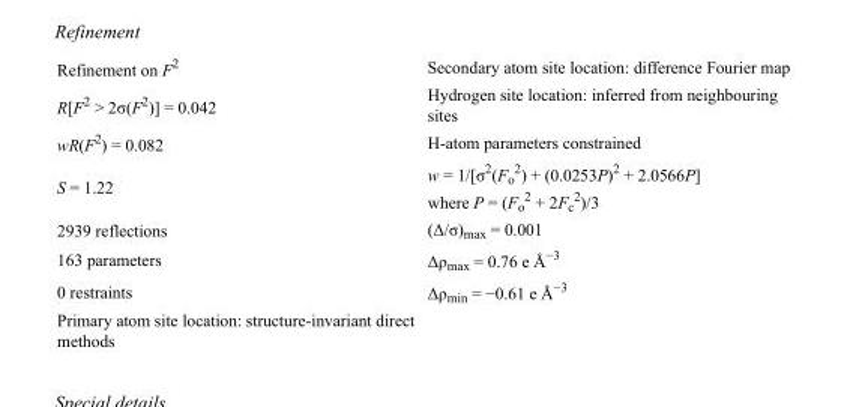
<table><tbody><tr><td>Refinement on F<sup>2</sup></td><td>Secondary atom site location: difference Fourier map</td></tr><tr><td>R[F<sup>2</sup> &gt; 2σ(F<sup>2</sup>)] = 0.042</td><td>Hydrogen site location: inferred from neighbouring sites</td></tr><tr><td>wR(F<sup>2</sup>) = 0.082</td><td>H-atom parameters constrained</td></tr><tr><td>S = 1.22</td><td>w = 1/[σ<sup>2</sup>(F<sub>o</sub> <sup>2</sup>) + (0.0253P)<sup>2</sup> + 2.0566P] where P = (F<sub>o</sub> <sup>2</sup> + 2F<sub>c</sub> <sup>2</sup>)/3</td></tr><tr><td>2939 reflections</td><td>(Δ/σ)<sub>max</sub> = 0.001</td></tr><tr><td>163 parameters</td><td>Δρ<sub>max</sub> = 0.76 e Å<sup>−3</sup></td></tr><tr><td>0 restraints</td><td>Δρ<sub>min</sub> = −0.61 e Å<sup>−3</sup></td></tr><tr><td>Primary atom site location: structure-invariant direct methods</td><td></td></tr></tbody></table>